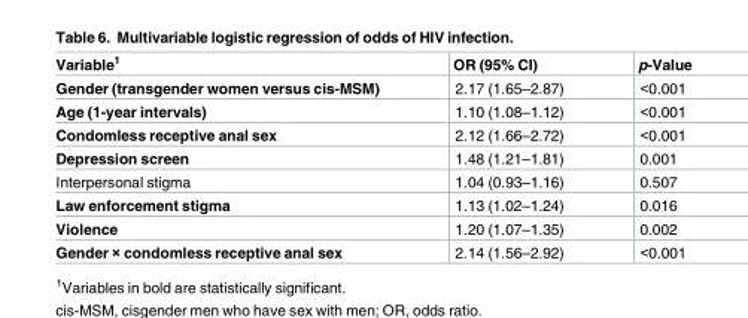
<table><thead><tr><td>Variable<sup>1</sup></td><td>OR (95% CI)</td><td>p-Value</td></tr></thead><tbody><tr><td>Gender (transgender women versus cis-MSM)</td><td>2.17 (1.65–2.87)</td><td>&lt;0.001</td></tr><tr><td>Age (1-year intervals)</td><td>1.10 (1.08–1.12)</td><td>&lt;0.001</td></tr><tr><td>Condomless receptive anal sex</td><td>2.12 (1.66–2.72)</td><td>&lt;0.001</td></tr><tr><td>Depression screen</td><td>1.48 (1.21–1.81)</td><td>0.001</td></tr><tr><td>Interpersonal stigma</td><td>1.04 (0.93–1.16)</td><td>0.507</td></tr><tr><td>Law enforcement stigma</td><td>1.13 (1.02–1.24)</td><td>0.016</td></tr><tr><td>Violence</td><td>1.20 (1.07–1.35)</td><td>0.002</td></tr><tr><td>Gender × condomless receptive anal sex</td><td>2.14 (1.56–2.92)</td><td>&lt;0.001</td></tr></tbody></table>